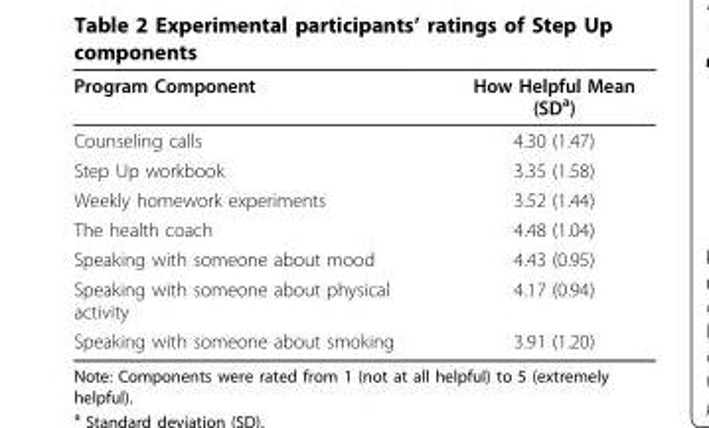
<table><thead><tr><td>Program Component</td><td>How Helpful Mean (SD<sup>a</sup>)</td></tr></thead><tbody><tr><td>Counseling calls</td><td>4.30 (1.47)</td></tr><tr><td>Step Up workbook</td><td>3.35 (1.58)</td></tr><tr><td>Weekly homework experiments</td><td>3.52 (1.44)</td></tr><tr><td>The health coach</td><td>4.48 (1.04)</td></tr><tr><td>Speaking with someone about mood</td><td>4.43 (0.95)</td></tr><tr><td>Speaking with someone about physical activity</td><td>4.17 (0.94)</td></tr><tr><td>Speaking with someone about smoking</td><td>3.91 (1.20)</td></tr></tbody></table>